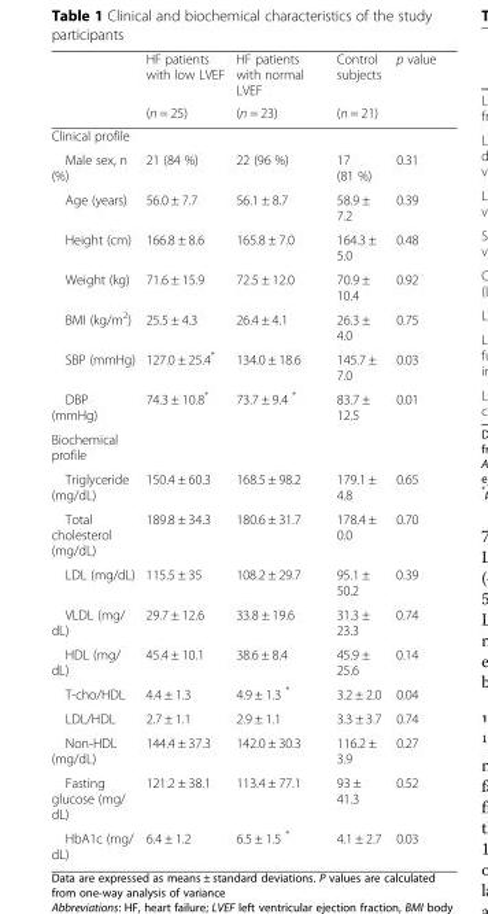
<table><thead><tr><td rowspan="2"></td><td rowspan="2">HF patients with low LVEF (n = 25)</td><td rowspan="2">HF patients with normal LVEF (n = 23)</td><td rowspan="2">Control subjects (n = 21)</td><td rowspan="2">p value</td></tr><tr></tr></thead><tbody><tr><td colspan="5">Clinical profile</td></tr><tr><td>Male sex, n (%)</td><td>21 (84 %)</td><td>22 (96 %)</td><td>17 (81 %)</td><td>0.31</td></tr><tr><td>Age (years)</td><td>56.0 ± 7.7</td><td>56.1 ± 8.7</td><td>58.9 ± 7.2</td><td>0.39</td></tr><tr><td>Height (cm)</td><td>166.8 ± 8.6</td><td>165.8 ± 7.0</td><td>164.3 ± 5.0</td><td>0.48</td></tr><tr><td>Weight (kg)</td><td>71.6 ± 15.9</td><td>72.5 ± 12.0</td><td>70.9 ± 10.4</td><td>0.92</td></tr><tr><td>BMI (kg/m<sup>2</sup>)</td><td>25.5 ± 4.3</td><td>26.4 ± 4.1</td><td>26.3 ± 4.0</td><td>0.75</td></tr><tr><td>SBP (mmHg)</td><td>127.0 ± 25.4*</td><td>134.0 ± 18.6</td><td>145.7 ± 7.0</td><td>0.03</td></tr><tr><td>DBP (mmHg)</td><td>74.3 ± 10.8*</td><td>73.7 ± 9.4 *</td><td>83.7 ± 12.5</td><td>0.01</td></tr><tr><td colspan="5">Biochemical profile</td></tr><tr><td>Triglyceride (mg/dL)</td><td>150.4 ± 60.3</td><td>168.5 ± 98.2</td><td>179.1 ± 4.8</td><td>0.65</td></tr><tr><td>Total cholesterol (mg/dL)</td><td>189.8 ± 34.3</td><td>180.6 ± 31.7</td><td>178.4 ± 0.0</td><td>0.70</td></tr><tr><td>LDL (mg/dL)</td><td>115.5 ± 35</td><td>108.2 ± 29.7</td><td>95.1 ± 50.2</td><td>0.39</td></tr><tr><td>VLDL (mg/ dL)</td><td>29.7 ± 12.6</td><td>33.8 ± 19.6</td><td>31.3 ± 23.3</td><td>0.74</td></tr><tr><td>HDL (mg/ dL)</td><td>45.4 ± 10.1</td><td>38.6 ± 8.4</td><td>45.9 ± 25.6</td><td>0.14</td></tr><tr><td>T-cho/HDL</td><td>4.4 ± 1.3</td><td>4.9 ± 1.3 *</td><td>3.2 ± 2.0</td><td>0.04</td></tr><tr><td>LDL/HDL</td><td>2.7 ± 1.1</td><td>2.9 ± 1.1</td><td>3.3 ± 3.7</td><td>0.74</td></tr><tr><td>Non-HDL (mg/dL)</td><td>144.4 ± 37.3</td><td>142.0 ± 30.3</td><td>116.2 ± 3.9</td><td>0.27</td></tr><tr><td>Fasting glucose (mg/ dL)</td><td>121.2 ± 38.1</td><td>113.4 ± 77.1</td><td>93 ± 41.3</td><td>0.52</td></tr><tr><td>HbA1c (mg/ dL)</td><td>6.4 ± 1.2</td><td>6.5 ± 1.5 *</td><td>4.1 ± 2.7</td><td>0.03</td></tr></tbody></table>